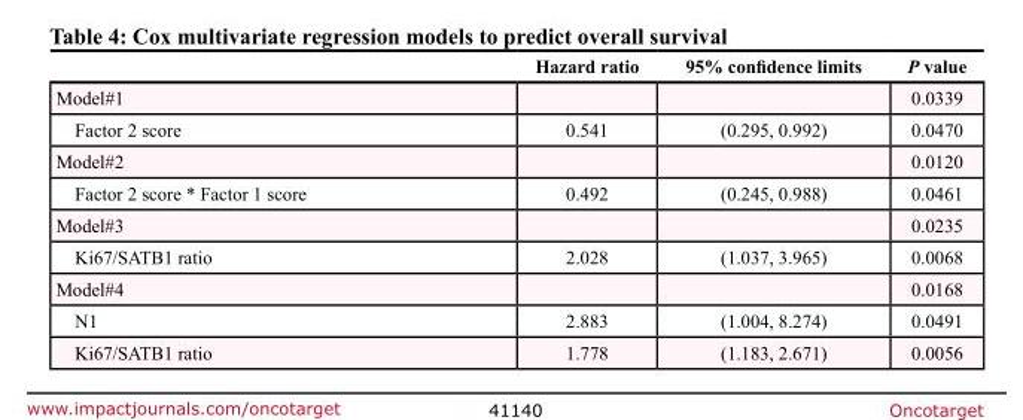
<table><thead><tr><td></td><td>Hazard ratio</td><td>95% confidence limits</td><td>P value</td></tr></thead><tbody><tr><td>Model#1</td><td></td><td></td><td>0.0339</td></tr><tr><td>Factor 2 score</td><td>0.541</td><td>(0.295, 0.992)</td><td>0.0470</td></tr><tr><td>Model#2</td><td></td><td></td><td>0.0120</td></tr><tr><td>Factor 2 score * Factor 1 score</td><td>0.492</td><td>(0.245, 0.988)</td><td>0.0461</td></tr><tr><td>Model#3</td><td></td><td></td><td>0.0235</td></tr><tr><td>Ki67/SATB1 ratio</td><td>2.028</td><td>(1.037, 3.965)</td><td>0.0068</td></tr><tr><td>Model#4</td><td></td><td></td><td>0.0168</td></tr><tr><td>N1</td><td>2.883</td><td>(1.004, 8.274)</td><td>0.0491</td></tr><tr><td>Ki67/SATB1 ratio</td><td>1.778</td><td>(1.183, 2.671)</td><td>0.0056</td></tr></tbody></table>